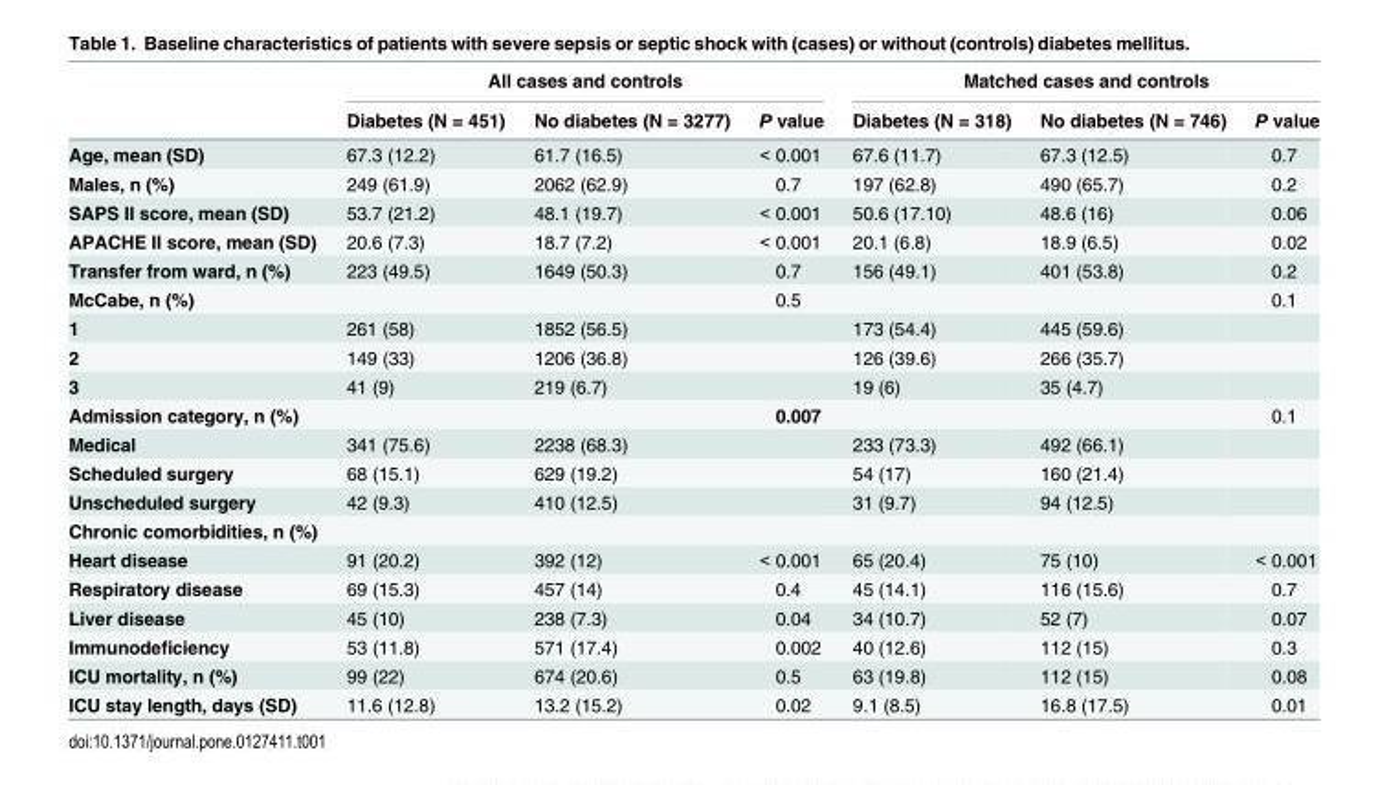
<table><thead><tr><td rowspan="2"></td><td colspan="3">All cases and controls</td><td colspan="3">Matched cases and controls</td></tr><tr><td>Diabetes (N = 451)</td><td>No diabetes (N = 3277)</td><td>P value</td><td>Diabetes (N = 318)</td><td>No diabetes (N = 746)</td><td>P value</td></tr></thead><tbody><tr><td>Age, mean (SD)</td><td>67.3 (12.2)</td><td>61.7 (16.5)</td><td>&lt; 0.001</td><td>67.6 (11.7)</td><td>67.3 (12.5)</td><td>0.7</td></tr><tr><td>Males, n (%)</td><td>249 (61.9)</td><td>2062 (62.9)</td><td>0.7</td><td>197 (62.8)</td><td>490 (65.7)</td><td>0.2</td></tr><tr><td>SAPS II score, mean (SD)</td><td>53.7 (21.2)</td><td>48.1 (19.7)</td><td>&lt; 0.001</td><td>50.6 (17.10)</td><td>48.6 (16)</td><td>0.06</td></tr><tr><td>APACHE II score, mean (SD)</td><td>20.6 (7.3)</td><td>18.7 (7.2)</td><td>&lt; 0.001</td><td>20.1 (6.8)</td><td>18.9 (6.5)</td><td>0.02</td></tr><tr><td>Transfer from ward, n (%)</td><td>223 (49.5)</td><td>1649 (50.3)</td><td>0.7</td><td>156 (49.1)</td><td>401 (53.8)</td><td>0.2</td></tr><tr><td>McCabe, n (%)</td><td></td><td></td><td>0.5</td><td></td><td></td><td>0.1</td></tr><tr><td>1</td><td>261 (58)</td><td>1852 (56.5)</td><td></td><td>173 (54.4)</td><td>445 (59.6)</td><td></td></tr><tr><td>2</td><td>149 (33)</td><td>1206 (36.8)</td><td></td><td>126 (39.6)</td><td>266 (35.7)</td><td></td></tr><tr><td>3</td><td>41 (9)</td><td>219 (6.7)</td><td></td><td>19 (6)</td><td>35 (4.7)</td><td></td></tr><tr><td>Admission category, n (%)</td><td></td><td></td><td>0.007</td><td></td><td></td><td>0.1</td></tr><tr><td>Medical</td><td>341 (75.6)</td><td>2238 (68.3)</td><td></td><td>233 (73.3)</td><td>492 (66.1)</td><td></td></tr><tr><td>Scheduled surgery</td><td>68 (15.1)</td><td>629 (19.2)</td><td></td><td>54 (17)</td><td>160 (21.4)</td><td></td></tr><tr><td>Unscheduled surgery</td><td>42 (9.3)</td><td>410 (12.5)</td><td></td><td>31 (9.7)</td><td>94 (12.5)</td><td></td></tr><tr><td colspan="7">Chronic comorbidities, n (%)</td></tr><tr><td>Heart disease</td><td>91 (20.2)</td><td>392 (12)</td><td>&lt; 0.001</td><td>65 (20.4)</td><td>75 (10)</td><td>&lt; 0.001</td></tr><tr><td>Respiratory disease</td><td>69 (15.3)</td><td>457 (14)</td><td>0.4</td><td>45 (14.1)</td><td>116 (15.6)</td><td>0.7</td></tr><tr><td>Liver disease</td><td>45 (10)</td><td>238 (7.3)</td><td>0.04</td><td>34 (10.7)</td><td>52 (7)</td><td>0.07</td></tr><tr><td>Immunodeficiency</td><td>53 (11.8)</td><td>571 (17.4)</td><td>0.002</td><td>40 (12.6)</td><td>112 (15)</td><td>0.3</td></tr><tr><td>ICU mortality, n (%)</td><td>99 (22)</td><td>674 (20.6)</td><td>0.5</td><td>63 (19.8)</td><td>112 (15)</td><td>0.08</td></tr><tr><td>ICU stay length, days (SD)</td><td>11.6 (12.8)</td><td>13.2 (15.2)</td><td>0.02</td><td>9.1 (8.5)</td><td>16.8 (17.5)</td><td>0.01</td></tr></tbody></table>